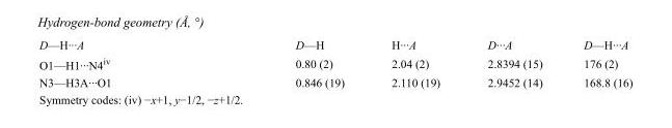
<table><tbody><tr><td>D—H···A</td><td>D—H</td><td>H···A</td><td>D···A</td><td>D—H···A</td></tr><tr><td>O1—H1···N4<sup>iv</sup></td><td>0.80 (2)</td><td>2.04 (2)</td><td>2.8394 (15)</td><td>176 (2)</td></tr><tr><td>N3—H3A···O1</td><td>0.846 (19)</td><td>2.110 (19)</td><td>2.9452 (14)</td><td>168.8 (16)</td></tr></tbody></table>